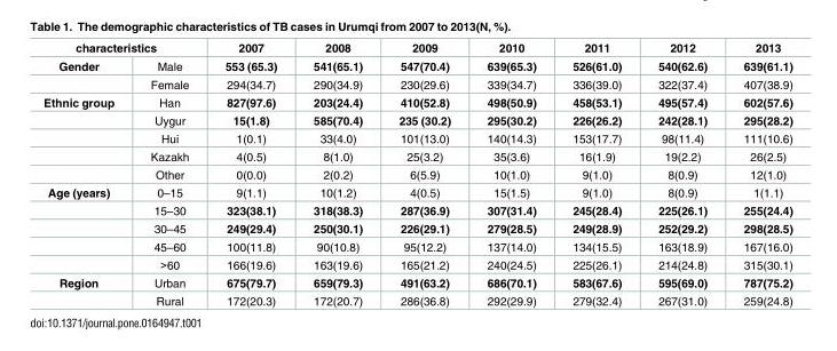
<table><thead><tr><td colspan="2">characteristics</td><td rowspan="2">2007 553 (65.3)</td><td rowspan="2">2008 541(65.1)</td><td rowspan="2">2009 547(70.4)</td><td rowspan="2">2010 639(65.3)</td><td rowspan="2">2011 526(61.0)</td><td rowspan="2">2012 540(62.6)</td><td rowspan="2">2013 639(61.1)</td></tr><tr><td>Gender</td><td>Male</td></tr></thead><tbody><tr><td></td><td>Female</td><td>294(34.7)</td><td>290(34.9)</td><td>230(29.6)</td><td>339(34.7)</td><td>336(39.0)</td><td>322(37.4)</td><td>407(38.9)</td></tr><tr><td rowspan="5">Ethnic group</td><td>Han</td><td>827(97.6)</td><td>203(24.4)</td><td>410(52.8)</td><td>498(50.9)</td><td>458(53.1)</td><td>495(57.4)</td><td>602(57.6)</td></tr><tr><td>Uygur</td><td>15(1.8)</td><td>585(70.4)</td><td>235 (30.2)</td><td>295(30.2)</td><td>226(26.2)</td><td>242(28.1)</td><td>295(28.2)</td></tr><tr><td>Hui</td><td>1(0.1)</td><td>33(4.0)</td><td>101(13.0)</td><td>140(14.3)</td><td>153(17.7)</td><td>98(11.4)</td><td>111(10.6)</td></tr><tr><td>Kazakh</td><td>4(0.5)</td><td>8(1.0)</td><td>25(3.2)</td><td>35(3.6)</td><td>16(1.9)</td><td>19(2.2)</td><td>26(2.5)</td></tr><tr><td>Other</td><td>0(0.0)</td><td>2(0.2)</td><td>6(5.9)</td><td>10(1.0)</td><td>9(1.0)</td><td>8(0.9)</td><td>12(1.0)</td></tr><tr><td rowspan="5">Age (years)</td><td>0–15</td><td>9(1.1)</td><td>10(1.2)</td><td>4(0.5)</td><td>15(1.5)</td><td>9(1.0)</td><td>8(0.9)</td><td>1(1.1)</td></tr><tr><td>15–30</td><td>323(38.1)</td><td>318(38.3)</td><td>287(36.9)</td><td>307(31.4)</td><td>245(28.4)</td><td>225(26.1)</td><td>255(24.4)</td></tr><tr><td>30–45</td><td>249(29.4)</td><td>250(30.1)</td><td>226(29.1)</td><td>279(28.5)</td><td>249(28.9)</td><td>252(29.2)</td><td>298(28.5)</td></tr><tr><td>45–60</td><td>100(11.8)</td><td>90(10.8)</td><td>95(12.2)</td><td>137(14.0)</td><td>134(15.5)</td><td>163(18.9)</td><td>167(16.0)</td></tr><tr><td>&gt;60</td><td>166(19.6)</td><td>163(19.6)</td><td>165(21.2)</td><td>240(24.5)</td><td>225(26.1)</td><td>214(24.8)</td><td>315(30.1)</td></tr><tr><td rowspan="2">Region</td><td>Urban</td><td>675(79.7)</td><td>659(79.3)</td><td>491(63.2)</td><td>686(70.1)</td><td>583(67.6)</td><td>595(69.0)</td><td>787(75.2)</td></tr><tr><td>Rural</td><td>172(20.3)</td><td>172(20.7)</td><td>286(36.8)</td><td>292(29.9)</td><td>279(32.4)</td><td>267(31.0)</td><td>259(24.8)</td></tr></tbody></table>